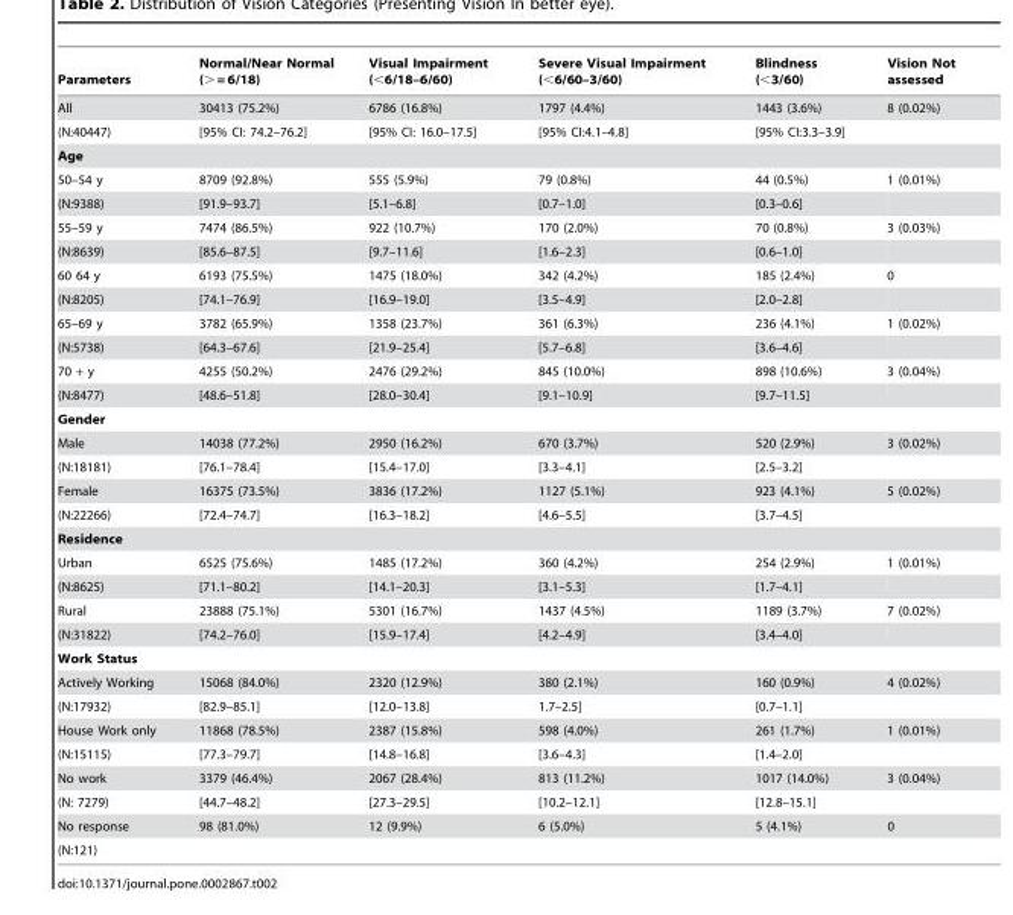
<table><thead><tr><td>Parameters</td><td>Normal/Near Normal (&gt; = 6/18)</td><td>Visual Impairment (&lt;6/18–6/60)</td><td>Severe Visual Impairment (&lt;6/60–3/60)</td><td>Blindness (&lt;3/60)</td><td>Vision Not assessed</td></tr></thead><tbody><tr><td>All</td><td>30413 (75.2%)</td><td>6786 (16.8%)</td><td>1797 (4.4%)</td><td>1443 (3.6%)</td><td>8 (0.02%)</td></tr><tr><td>(N:40447)</td><td>[95% CI: 74.2–76.2]</td><td>[95% CI: 16.0–17.5]</td><td>[95% CI:4.1–4.8]</td><td>[95% CI:3.3–3.9]</td><td></td></tr><tr><td colspan="6">Age</td></tr><tr><td>50–54 y</td><td>8709 (92.8%)</td><td>555 (5.9%)</td><td>79 (0.8%)</td><td>44 (0.5%)</td><td>1 (0.01%)</td></tr><tr><td>(N:9388)</td><td>[91.9–93.7]</td><td>[5.1–6.8]</td><td>[0.7–1.0]</td><td>[0.3–0.6]</td><td></td></tr><tr><td>55–59 y</td><td>7474 (86.5%)</td><td>922 (10.7%)</td><td>170 (2.0%)</td><td>70 (0.8%)</td><td>3 (0.03%)</td></tr><tr><td>(N:8639)</td><td>[85.6–87.5]</td><td>[9.7–11.6]</td><td>[1.6–2.3]</td><td>[0.6–1.0]</td><td></td></tr><tr><td>60 64 y</td><td>6193 (75.5%)</td><td>1475 (18.0%)</td><td>342 (4.2%)</td><td>185 (2.4%)</td><td>0</td></tr><tr><td>(N:8205)</td><td>[74.1–76.9]</td><td>[16.9–19.0]</td><td>[3.5–4.9]</td><td>[2.0–2.8]</td><td></td></tr><tr><td>65–69 y</td><td>3782 (65.9%)</td><td>1358 (23.7%)</td><td>361 (6.3%)</td><td>236 (4.1%)</td><td>1 (0.02%)</td></tr><tr><td>(N:5738)</td><td>[64.3–67.6]</td><td>[21.9–25.4]</td><td>[5.7–6.8]</td><td>[3.6–4.6]</td><td></td></tr><tr><td>70 + y</td><td>4255 (50.2%)</td><td>2476 (29.2%)</td><td>845 (10.0%)</td><td>898 (10.6%)</td><td>3 (0.04%)</td></tr><tr><td>(N:8477)</td><td>[48.6–51.8]</td><td>[28.0–30.4]</td><td>[9.1–10.9]</td><td>[9.7–11.5]</td><td></td></tr><tr><td colspan="6">Gender</td></tr><tr><td>Male</td><td>14038 (77.2%)</td><td>2950 (16.2%)</td><td>670 (3.7%)</td><td>520 (2.9%)</td><td>3 (0.02%)</td></tr><tr><td>(N:18181)</td><td>[76.1–78.4]</td><td>[15.4–17.0]</td><td>[3.3–4.1]</td><td>[2.5–3.2]</td><td></td></tr><tr><td>Female</td><td>16375 (73.5%)</td><td>3836 (17.2%)</td><td>1127 (5.1%)</td><td>923 (4.1%)</td><td>5 (0.02%)</td></tr><tr><td>(N:22266)</td><td>[72.4–74.7]</td><td>[16.3–18.2]</td><td>[4.6–5.5]</td><td>[3.7–4.5]</td><td></td></tr><tr><td colspan="6">Residence</td></tr><tr><td>Urban</td><td>6525 (75.6%)</td><td>1485 (17.2%)</td><td>360 (4.2%)</td><td>254 (2.9%)</td><td>1 (0.01%)</td></tr><tr><td>(N:8625)</td><td>[71.1–80.2]</td><td>[14.1–20.3]</td><td>[3.1–5.3]</td><td>[1.7–4.1]</td><td></td></tr><tr><td>Rural</td><td>23888 (75.1%)</td><td>5301 (16.7%)</td><td>1437 (4.5%)</td><td>1189 (3.7%)</td><td>7 (0.02%)</td></tr><tr><td>(N:31822)</td><td>[74.2–76.0]</td><td>[15.9–17.4]</td><td>[4.2–4.9]</td><td>[3.4–4.0]</td><td></td></tr><tr><td colspan="6">Work Status</td></tr><tr><td>Actively Working</td><td>15068 (84.0%)</td><td>2320 (12.9%)</td><td>380 (2.1%)</td><td>160 (0.9%)</td><td>4 (0.02%)</td></tr><tr><td>(N:17932)</td><td>[82.9–85.1]</td><td>[12.0–13.8]</td><td>1.7–2.5]</td><td>[0.7–1.1]</td><td></td></tr><tr><td>House Work only</td><td>11868 (78.5%)</td><td>2387 (15.8%)</td><td>598 (4.0%)</td><td>261 (1.7%)</td><td>1 (0.01%)</td></tr><tr><td>(N:15115)</td><td>[77.3–79.7]</td><td>[14.8–16.8]</td><td>[3.6–4.3]</td><td>[1.4–2.0]</td><td></td></tr><tr><td>No work</td><td>3379 (46.4%)</td><td>2067 (28.4%)</td><td>813 (11.2%)</td><td>1017 (14.0%)</td><td>3 (0.04%)</td></tr><tr><td>(N: 7279)</td><td>[44.7–48.2]</td><td>[27.3–29.5]</td><td>[10.2–12.1]</td><td>[12.8–15.1]</td><td></td></tr><tr><td>No response</td><td>98 (81.0%)</td><td>12 (9.9%)</td><td>6 (5.0%)</td><td>5 (4.1%)</td><td>0</td></tr><tr><td>(N:121)</td><td></td><td></td><td></td><td></td><td></td></tr></tbody></table>